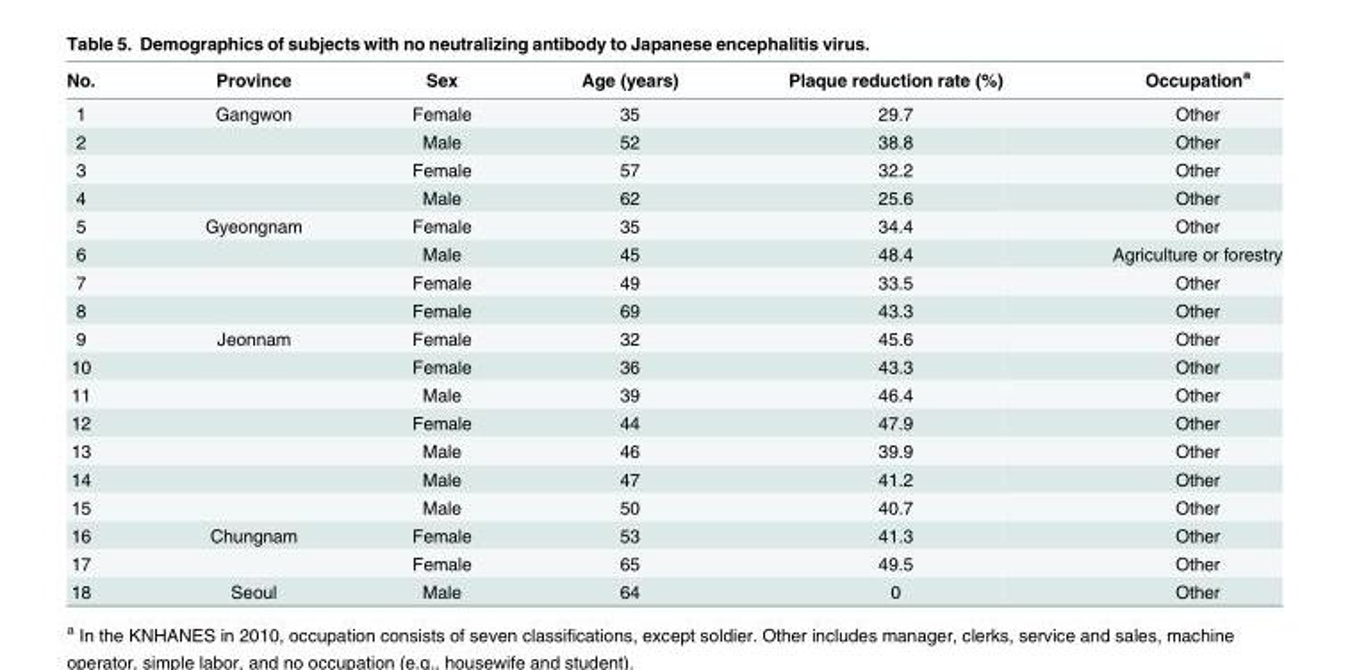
<table><thead><tr><td>No.</td><td>Province</td><td>Sex</td><td>Age (years)</td><td>Plaque reduction rate (%)</td><td>Occupation<sup>a</sup></td></tr></thead><tbody><tr><td>1</td><td>Gangwon</td><td>Female</td><td>35</td><td>29.7</td><td>Other</td></tr><tr><td>2</td><td></td><td>Male</td><td>52</td><td>38.8</td><td>Other</td></tr><tr><td>3</td><td></td><td>Female</td><td>57</td><td>32.2</td><td>Other</td></tr><tr><td>4</td><td></td><td>Male</td><td>62</td><td>25.6</td><td>Other</td></tr><tr><td>5</td><td>Gyeongnam</td><td>Female</td><td>35</td><td>34.4</td><td>Other</td></tr><tr><td>6</td><td></td><td>Male</td><td>45</td><td>48.4</td><td>Agriculture or forestry</td></tr><tr><td>7</td><td></td><td>Female</td><td>49</td><td>33.5</td><td>Other</td></tr><tr><td>8</td><td></td><td>Female</td><td>69</td><td>43.3</td><td>Other</td></tr><tr><td>9</td><td>Jeonnam</td><td>Female</td><td>32</td><td>45.6</td><td>Other</td></tr><tr><td>10</td><td></td><td>Female</td><td>36</td><td>43.3</td><td>Other</td></tr><tr><td>11</td><td></td><td>Male</td><td>39</td><td>46.4</td><td>Other</td></tr><tr><td>12</td><td></td><td>Female</td><td>44</td><td>47.9</td><td>Other</td></tr><tr><td>13</td><td></td><td>Male</td><td>46</td><td>39.9</td><td>Other</td></tr><tr><td>14</td><td></td><td>Male</td><td>47</td><td>41.2</td><td>Other</td></tr><tr><td>15</td><td></td><td>Male</td><td>50</td><td>40.7</td><td>Other</td></tr><tr><td>16</td><td>Chungnam</td><td>Female</td><td>53</td><td>41.3</td><td>Other</td></tr><tr><td>17</td><td></td><td>Female</td><td>65</td><td>49.5</td><td>Other</td></tr><tr><td>18</td><td>Seoul</td><td>Male</td><td>64</td><td>0</td><td>Other</td></tr></tbody></table>